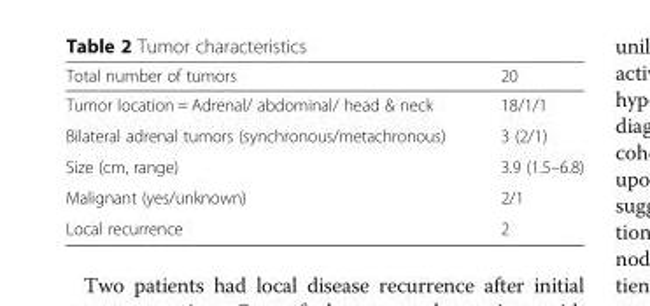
<table><thead><tr><td>Total number of tumors</td><td>20</td></tr></thead><tbody><tr><td>Tumor location = Adrenal/ abdominal/ head &amp; neck</td><td>18/1/1</td></tr><tr><td>Bilateral adrenal tumors (synchronous/metachronous)</td><td>3 (2/1)</td></tr><tr><td>Size (cm, range)</td><td>3.9 (1.5–6.8)</td></tr><tr><td>Malignant (yes/unknown)</td><td>2/1</td></tr><tr><td>Local recurrence</td><td>2</td></tr></tbody></table>